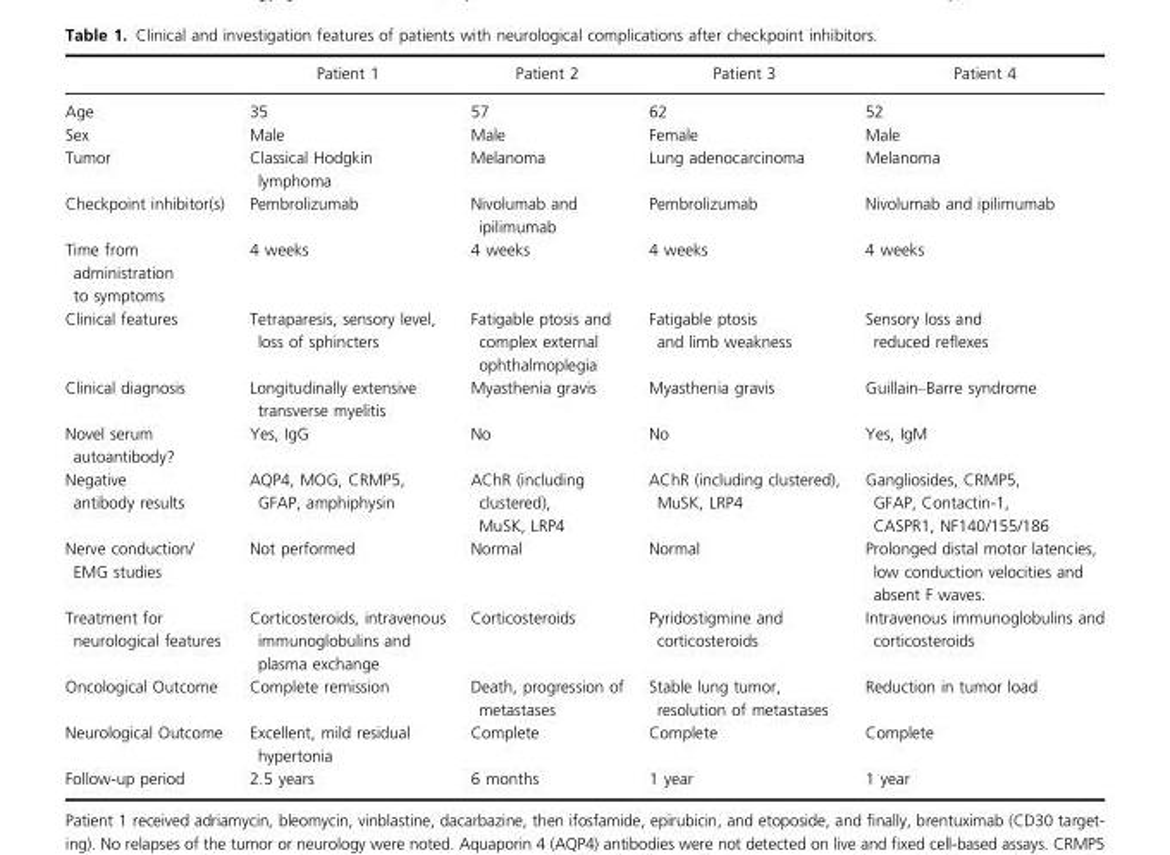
<table><thead><tr><td></td><td>Patient 1</td><td>Patient 2</td><td>Patient 3</td><td>Patient 4</td></tr></thead><tbody><tr><td>Age</td><td>35</td><td>57</td><td>62</td><td>52</td></tr><tr><td>Sex</td><td>Male</td><td>Male</td><td>Female</td><td>Male</td></tr><tr><td>Tumor</td><td>Classical Hodgkin lymphoma</td><td>Melanoma</td><td>Lung adenocarcinoma</td><td>Melanoma</td></tr><tr><td>Checkpoint inhibitor(s)</td><td>Pembrolizumab</td><td>Nivolumab and ipilimumab</td><td>Pembrolizumab</td><td>Nivolumab and ipilimumab</td></tr><tr><td>Time from administration to symptoms</td><td>4 weeks</td><td>4 weeks</td><td>4 weeks</td><td>4 weeks</td></tr><tr><td>Clinical features</td><td>Tetraparesis, sensory level, loss of sphincters</td><td>Fatigable ptosis and complex external ophthalmoplegia</td><td>Fatigable ptosis and limb weakness</td><td>Sensory loss and reduced reflexes</td></tr><tr><td>Clinical diagnosis</td><td>Longitudinally extensive transverse myelitis</td><td>Myasthenia gravis</td><td>Myasthenia gravis</td><td>Guillain–Barre syndrome</td></tr><tr><td>Novel serum autoantibody?</td><td>Yes, IgG</td><td>No</td><td>No</td><td>Yes, IgM</td></tr><tr><td>Negative antibody results</td><td>AQP4, MOG, CRMP5, GFAP, amphiphysin</td><td>AChR (including clustered), MuSK, LRP4</td><td>AChR (including clustered), MuSK, LRP4</td><td>Gangliosides, CRMP5, GFAP, Contactin-1, CASPR1, NF140/155/186</td></tr><tr><td>Nerve conduction/ EMG studies</td><td>Not performed</td><td>Normal</td><td>Normal</td><td>Prolonged distal motor latencies, low conduction velocities and absent F waves.</td></tr><tr><td>Treatment for neurological features</td><td>Corticosteroids, intravenous immunoglobulins and plasma exchange</td><td>Corticosteroids</td><td>Pyridostigmine and corticosteroids</td><td>Intravenous immunoglobulins and corticosteroids</td></tr><tr><td>Oncological Outcome</td><td>Complete remission</td><td>Death, progression of metastases</td><td>Stable lung tumor, resolution of metastases</td><td>Reduction in tumor load</td></tr><tr><td>Neurological Outcome</td><td>Excellent, mild residual hypertonia</td><td>Complete</td><td>Complete</td><td>Complete</td></tr><tr><td>Follow-up period</td><td>2.5 years</td><td>6 months</td><td>1 year</td><td>1 year</td></tr></tbody></table>